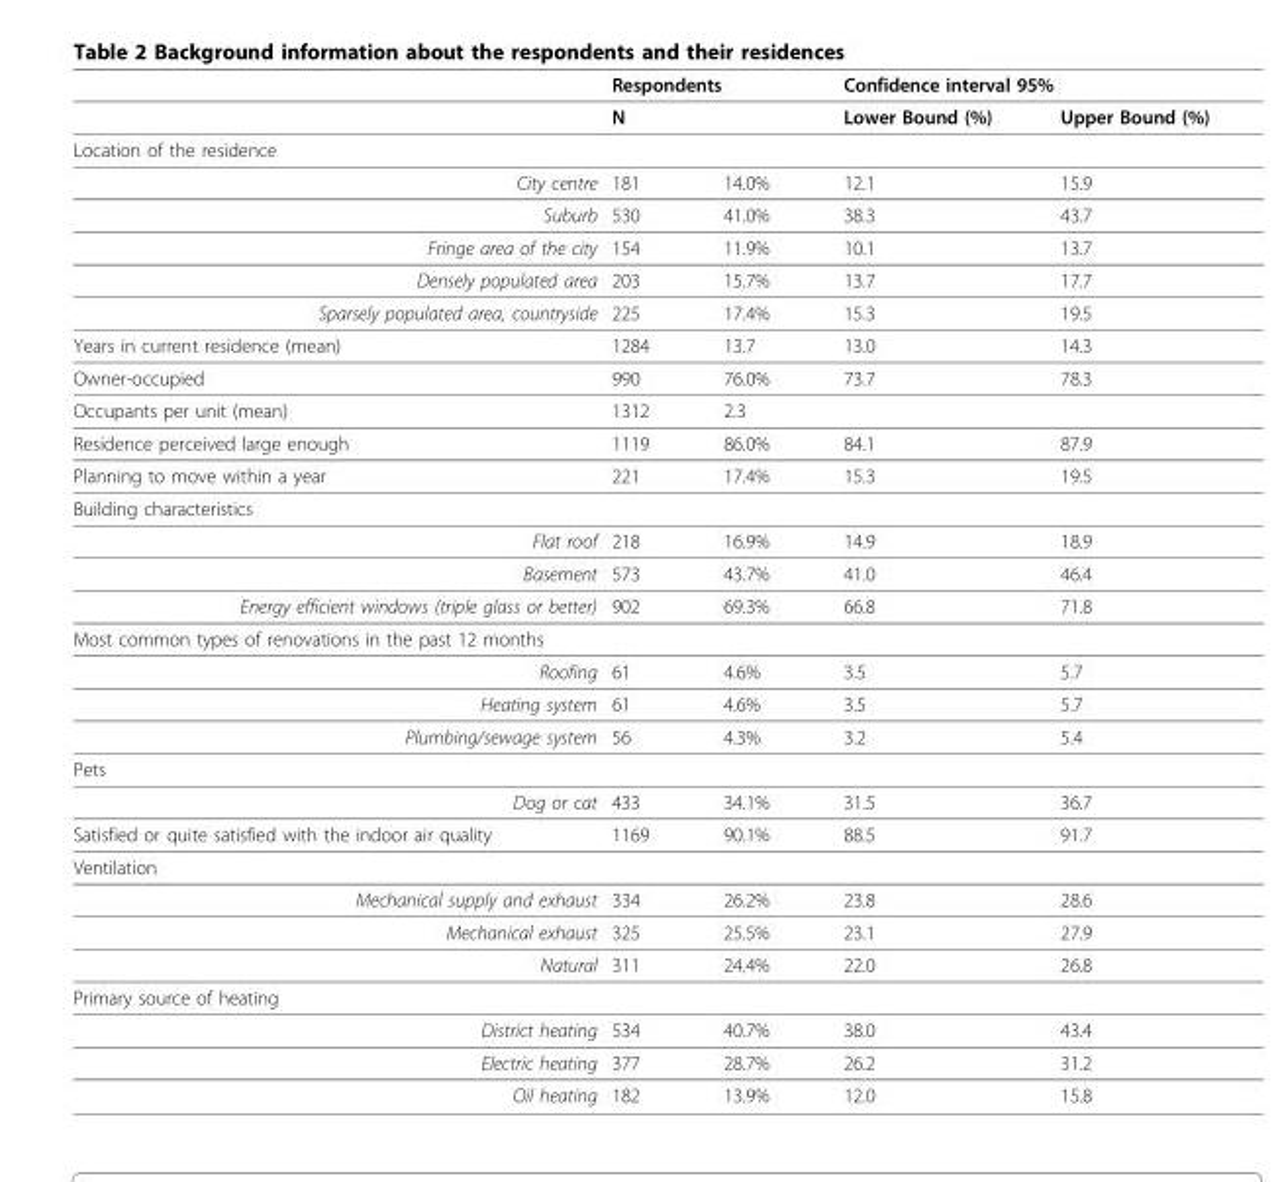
<table><thead><tr><td rowspan="2"></td><td colspan="2">Respondents</td><td colspan="2">Confidence interval 95%</td></tr><tr><td>N</td><td></td><td>Lower Bound (%)</td><td>Upper Bound (%)</td></tr></thead><tbody><tr><td colspan="5">Location of the residence</td></tr><tr><td>City centre</td><td>181</td><td>14.0%</td><td>12.1</td><td>15.9</td></tr><tr><td>Suburb</td><td>530</td><td>41.0%</td><td>38.3</td><td>43.7</td></tr><tr><td>Fringe area of the city</td><td>154</td><td>11.9%</td><td>10.1</td><td>13.7</td></tr><tr><td>Densely populated area</td><td>203</td><td>15.7%</td><td>13.7</td><td>17.7</td></tr><tr><td>Sparsely populated area, countryside</td><td>225</td><td>17.4%</td><td>15.3</td><td>19.5</td></tr><tr><td>Years in current residence (mean)</td><td>1284</td><td>13.7</td><td>13.0</td><td>14.3</td></tr><tr><td>Owner-occupied</td><td>990</td><td>76.0%</td><td>73.7</td><td>78.3</td></tr><tr><td>Occupants per unit (mean)</td><td>1312</td><td>2.3</td><td></td><td></td></tr><tr><td>Residence perceived large enough</td><td>1119</td><td>86.0%</td><td>84.1</td><td>87.9</td></tr><tr><td>Planning to move within a year</td><td>221</td><td>17.4%</td><td>15.3</td><td>19.5</td></tr><tr><td colspan="5">Building characteristics</td></tr><tr><td>Flat roof</td><td>218</td><td>16.9%</td><td>14.9</td><td>18.9</td></tr><tr><td>Basement</td><td>573</td><td>43.7%</td><td>41.0</td><td>46.4</td></tr><tr><td>Energy efficient windows (triple glass or better)</td><td>902</td><td>69.3%</td><td>66.8</td><td>71.8</td></tr><tr><td colspan="5">Most common types of renovations in the past 12 months</td></tr><tr><td>Roofing</td><td>61</td><td>4.6%</td><td>3.5</td><td>5.7</td></tr><tr><td>Heating system</td><td>61</td><td>4.6%</td><td>3.5</td><td>5.7</td></tr><tr><td>Plumbing/sewage system</td><td>56</td><td>4.3%</td><td>3.2</td><td>5.4</td></tr><tr><td colspan="5">Pets</td></tr><tr><td>Dog or cat</td><td>433</td><td>34.1%</td><td>31.5</td><td>36.7</td></tr><tr><td>Satisfied or quite satisfied with the indoor air quality</td><td>1169</td><td>90.1%</td><td>88.5</td><td>91.7</td></tr><tr><td colspan="5">Ventilation</td></tr><tr><td>Mechanical supply and exhaust</td><td>334</td><td>26.2%</td><td>23.8</td><td>28.6</td></tr><tr><td>Mechanical exhaust</td><td>325</td><td>25.5%</td><td>23.1</td><td>27.9</td></tr><tr><td>Natural</td><td>311</td><td>24.4%</td><td>22.0</td><td>26.8</td></tr><tr><td colspan="5">Primary source of heating</td></tr><tr><td>District heating</td><td>534</td><td>40.7%</td><td>38.0</td><td>43.4</td></tr><tr><td>Electric heating</td><td>377</td><td>28.7%</td><td>26.2</td><td>31.2</td></tr><tr><td>Oil heating</td><td>182</td><td>13.9%</td><td>12.0</td><td>15.8</td></tr></tbody></table>